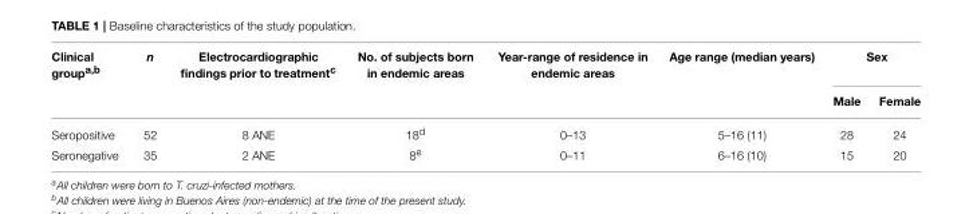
<table><thead><tr><td rowspan="2">Clinical group<sup>a,b</sup></td><td rowspan="2">n</td><td rowspan="2">Electrocardiographic findings prior to treatment<sup>c</sup></td><td rowspan="2">No. of subjects born in endemic areas</td><td rowspan="2">Year-range of residence in endemic areas</td><td rowspan="2">Age range (median years)</td><td colspan="2">Sex</td></tr><tr><td>Male</td><td>Female</td></tr></thead><tbody><tr><td>Seropositive</td><td>52</td><td>8 ANE</td><td>18<sup>d</sup></td><td>0–13</td><td>5–16 (11)</td><td>28</td><td>24</td></tr><tr><td>Seronegative</td><td>35</td><td>2 ANE</td><td>8<sup>e</sup></td><td>0–11</td><td>6–16 (10)</td><td>15</td><td>20</td></tr></tbody></table>